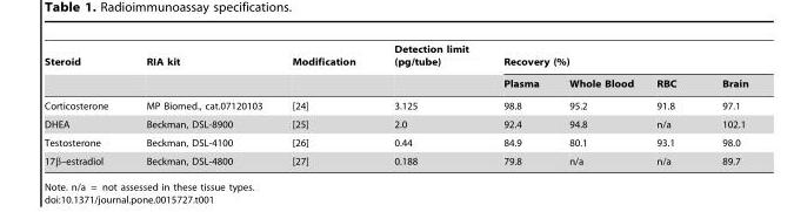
<table><thead><tr><td rowspan="2">Steroid</td><td rowspan="2">RIA kit</td><td rowspan="2">Modification</td><td rowspan="2">Detection limit (pg/tube)</td><td colspan="4">Recovery (%)</td></tr><tr><td>Plasma</td><td>Whole Blood</td><td>RBC</td><td>Brain</td></tr></thead><tbody><tr><td>Corticosterone</td><td>MP Biomed., cat.07120103</td><td>[24]</td><td>3.125</td><td>98.8</td><td>95.2</td><td>91.8</td><td>97.1</td></tr><tr><td>DHEA</td><td>Beckman, DSL-8900</td><td>[25]</td><td>2.0</td><td>92.4</td><td>94.8</td><td>n/a</td><td>102.1</td></tr><tr><td>Testosterone</td><td>Beckman, DSL-4100</td><td>[26]</td><td>0.44</td><td>84.9</td><td>80.1</td><td>93.1</td><td>98.0</td></tr><tr><td>17β–estradiol</td><td>Beckman, DSL-4800</td><td>[27]</td><td>0.188</td><td>79.8</td><td>n/a</td><td>n/a</td><td>89.7</td></tr></tbody></table>